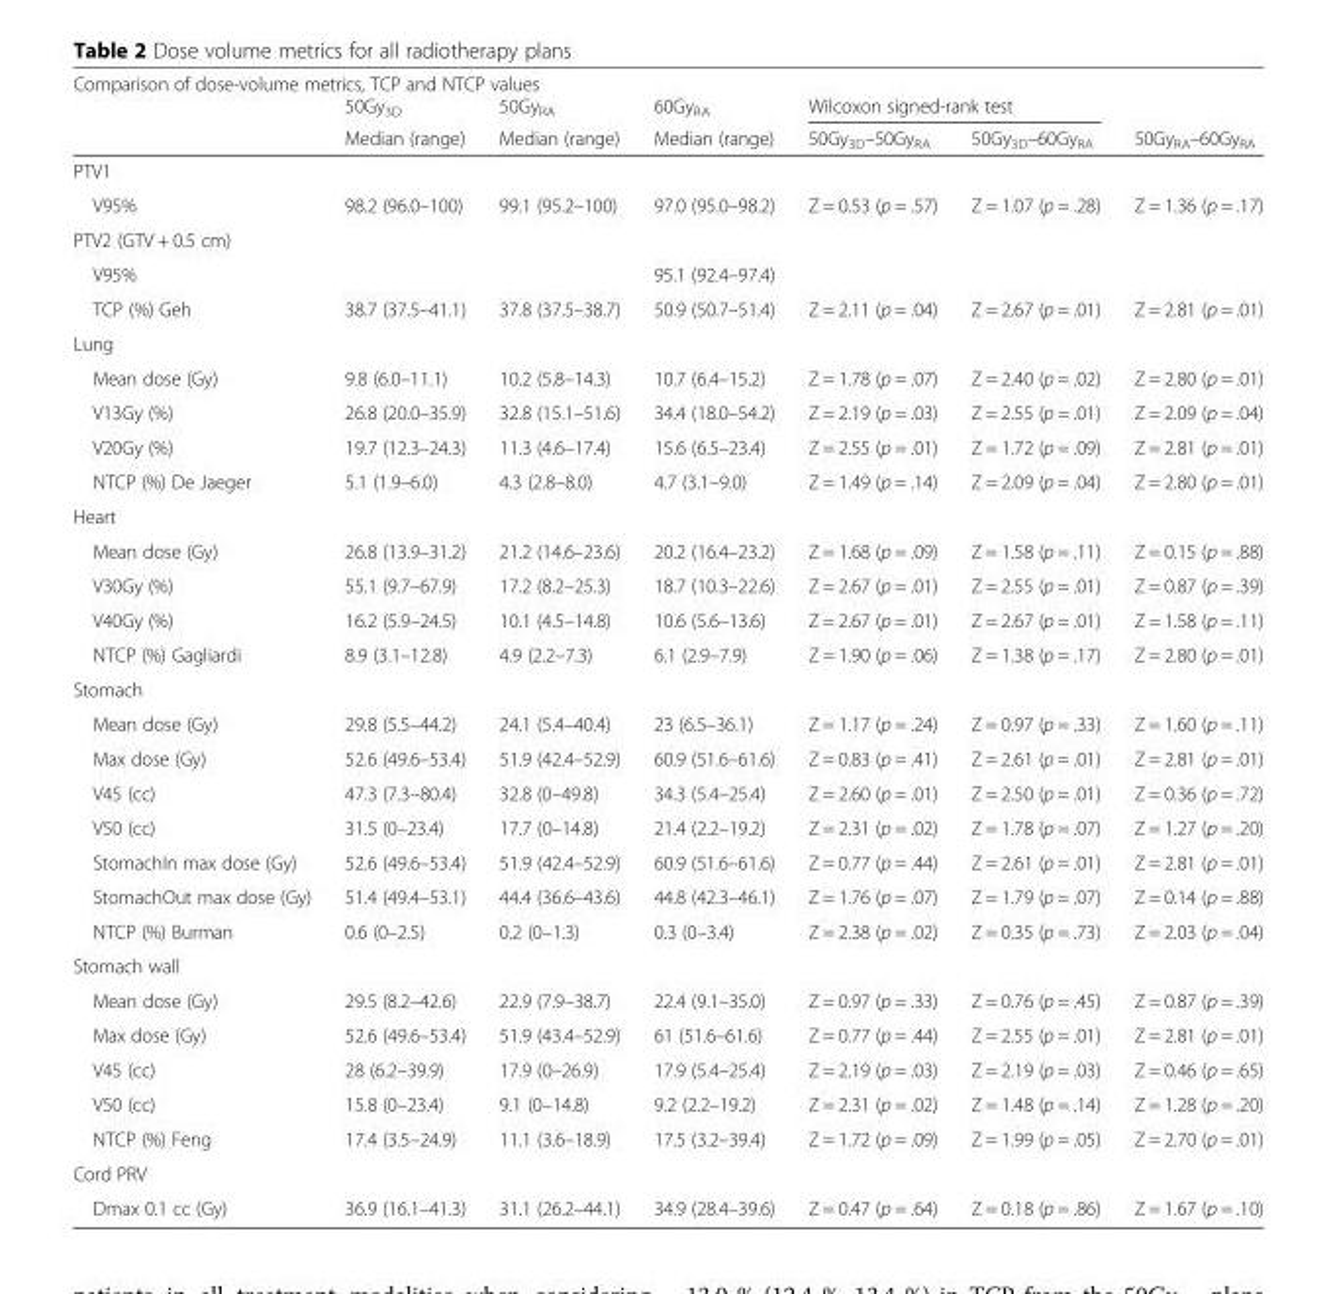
<table><thead><tr><td colspan="7">Comparison of dose-volume metrics, TCP and NTCP values</td></tr><tr><td rowspan="2"></td><td rowspan="2">50Gy<sub>3D</sub> Median (range)</td><td rowspan="2">50Gy<sub>RA</sub> Median (range)</td><td rowspan="2">60Gy<sub>RA</sub> Median (range)</td><td colspan="2">Wilcoxon signed-rank test</td><td rowspan="2">50Gy<sub>RA</sub>–60Gy<sub>RA</sub></td></tr><tr><td>50Gy<sub>3D</sub>–50Gy<sub>RA</sub></td><td>50Gy<sub>3D</sub>–60Gy<sub>RA</sub></td></tr></thead><tbody><tr><td colspan="7">PTV1</td></tr><tr><td>V95%</td><td>98.2 (96.0–100)</td><td>99.1 (95.2–100)</td><td>97.0 (95.0–98.2)</td><td>Z = 0.53 (p = .57)</td><td>Z = 1.07 (p = .28)</td><td>Z = 1.36 (p = .17)</td></tr><tr><td colspan="7">PTV2 (GTV + 0.5 cm)</td></tr><tr><td>V95%</td><td></td><td></td><td>95.1 (92.4–97.4)</td><td></td><td></td><td></td></tr><tr><td>TCP (%) Geh</td><td>38.7 (37.5–41.1)</td><td>37.8 (37.5–38.7)</td><td>50.9 (50.7–51.4)</td><td>Z = 2.11 (p = .04)</td><td>Z = 2.67 (p = .01)</td><td>Z = 2.81 (p = .01)</td></tr><tr><td colspan="7">Lung</td></tr><tr><td>Mean dose (Gy)</td><td>9.8 (6.0–11.1)</td><td>10.2 (5.8–14.3)</td><td>10.7 (6.4–15.2)</td><td>Z = 1.78 (p = .07)</td><td>Z = 2.40 (p = .02)</td><td>Z = 2.80 (p = .01)</td></tr><tr><td>V13Gy (%)</td><td>26.8 (20.0–35.9)</td><td>32.8 (15.1–51.6)</td><td>34.4 (18.0–54.2)</td><td>Z = 2.19 (p = .03)</td><td>Z = 2.55 (p = .01)</td><td>Z = 2.09 (p = .04)</td></tr><tr><td>V20Gy (%)</td><td>19.7 (12.3–24.3)</td><td>11.3 (4.6–17.4)</td><td>15.6 (6.5–23.4)</td><td>Z = 2.55 (p = .01)</td><td>Z = 1.72 (p = .09)</td><td>Z = 2.81 (p = .01)</td></tr><tr><td>NTCP (%) De Jaeger</td><td>5.1 (1.9–6.0)</td><td>4.3 (2.8–8.0)</td><td>4.7 (3.1–9.0)</td><td>Z = 1.49 (p = .14)</td><td>Z = 2.09 (p = .04)</td><td>Z = 2.80 (p = .01)</td></tr><tr><td colspan="7">Heart</td></tr><tr><td>Mean dose (Gy)</td><td>26.8 (13.9–31.2)</td><td>21.2 (14.6–23.6)</td><td>20.2 (16.4–23.2)</td><td>Z = 1.68 (p = .09)</td><td>Z = 1.58 (p = .11)</td><td>Z = 0.15 (p = .88)</td></tr><tr><td>V30Gy (%)</td><td>55.1 (9.7–67.9)</td><td>17.2 (8.2–25.3)</td><td>18.7 (10.3–22.6)</td><td>Z = 2.67 (p = .01)</td><td>Z = 2.55 (p = .01)</td><td>Z = 0.87 (p = .39)</td></tr><tr><td>V40Gy (%)</td><td>16.2 (5.9–24.5)</td><td>10.1 (4.5–14.8)</td><td>10.6 (5.6–13.6)</td><td>Z = 2.67 (p = .01)</td><td>Z = 2.67 (p = .01)</td><td>Z = 1.58 (p = .11)</td></tr><tr><td>NTCP (%) Gagliardi</td><td>8.9 (3.1–12.8)</td><td>4.9 (2.2–7.3)</td><td>6.1 (2.9–7.9)</td><td>Z = 1.90 (p = .06)</td><td>Z = 1.38 (p = .17)</td><td>Z = 2.80 (p = .01)</td></tr><tr><td colspan="7">Stomach</td></tr><tr><td>Mean dose (Gy)</td><td>29.8 (5.5–44.2)</td><td>24.1 (5.4–40.4)</td><td>23 (6.5–36.1)</td><td>Z = 1.17 (p = .24)</td><td>Z = 0.97 (p = .33)</td><td>Z = 1.60 (p = .11)</td></tr><tr><td>Max dose (Gy)</td><td>52.6 (49.6–53.4)</td><td>51.9 (42.4–52.9)</td><td>60.9 (51.6–61.6)</td><td>Z = 0.83 (p = .41)</td><td>Z = 2.61 (p = .01)</td><td>Z = 2.81 (p = .01)</td></tr><tr><td>V45 (cc)</td><td>47.3 (7.3–80.4)</td><td>32.8 (0–49.8)</td><td>34.3 (5.4–25.4)</td><td>Z = 2.60 (p = .01)</td><td>Z = 2.50 (p = .01)</td><td>Z = 0.36 (p = .72)</td></tr><tr><td>V50 (cc)</td><td>31.5 (0–23.4)</td><td>17.7 (0–14.8)</td><td>21.4 (2.2–19.2)</td><td>Z = 2.31 (p = .02)</td><td>Z = 1.78 (p = .07)</td><td>Z = 1.27 (p = .20)</td></tr><tr><td>StomachIn max dose (Gy)</td><td>52.6 (49.6–53.4)</td><td>51.9 (42.4–52.9)</td><td>60.9 (51.6–61.6)</td><td>Z = 0.77 (p = .44)</td><td>Z = 2.61 (p = .01)</td><td>Z = 2.81 (p = .01)</td></tr><tr><td>StomachOut max dose (Gy)</td><td>51.4 (49.4–53.1)</td><td>44.4 (36.6–43.6)</td><td>44.8 (42.3–46.1)</td><td>Z = 1.76 (p = .07)</td><td>Z = 1.79 (p = .07)</td><td>Z = 0.14 (p = .88)</td></tr><tr><td>NTCP (%) Burman</td><td>0.6 (0–2.5)</td><td>0.2 (0–1.3)</td><td>0.3 (0–3.4)</td><td>Z = 2.38 (p = .02)</td><td>Z = 0.35 (p = .73)</td><td>Z = 2.03 (p = .04)</td></tr><tr><td colspan="7">Stomach wall</td></tr><tr><td>Mean dose (Gy)</td><td>29.5 (8.2–42.6)</td><td>22.9 (7.9–38.7)</td><td>22.4 (9.1–35.0)</td><td>Z = 0.97 (p = .33)</td><td>Z = 0.76 (p = .45)</td><td>Z = 0.87 (p = .39)</td></tr><tr><td>Max dose (Gy)</td><td>52.6 (49.6–53.4)</td><td>51.9 (43.4–52.9)</td><td>61 (51.6–61.6)</td><td>Z = 0.77 (p = .44)</td><td>Z = 2.55 (p = .01)</td><td>Z = 2.81 (p = .01)</td></tr><tr><td>V45 (cc)</td><td>28 (6.2–39.9)</td><td>17.9 (0–26.9)</td><td>17.9 (5.4–25.4)</td><td>Z = 2.19 (p = .03)</td><td>Z = 2.19 (p = .03)</td><td>Z = 0.46 (p = .65)</td></tr><tr><td>V50 (cc)</td><td>15.8 (0–23.4)</td><td>9.1 (0–14.8)</td><td>9.2 (2.2–19.2)</td><td>Z = 2.31 (p = .02)</td><td>Z = 1.48 (p = .14)</td><td>Z = 1.28 (p = .20)</td></tr><tr><td>NTCP (%) Feng</td><td>17.4 (3.5–24.9)</td><td>11.1 (3.6–18.9)</td><td>17.5 (3.2–39.4)</td><td>Z = 1.72 (p = .09)</td><td>Z = 1.99 (p = .05)</td><td>Z = 2.70 (p = .01)</td></tr><tr><td colspan="7">Cord PRV</td></tr><tr><td>Dmax 0.1 cc (Gy)</td><td>36.9 (16.1–41.3)</td><td>31.1 (26.2–44.1)</td><td>34.9 (28.4–39.6)</td><td>Z = 0.47 (p = .64)</td><td>Z = 0.18 (p = .86)</td><td>Z = 1.67 (p = .10)</td></tr></tbody></table>